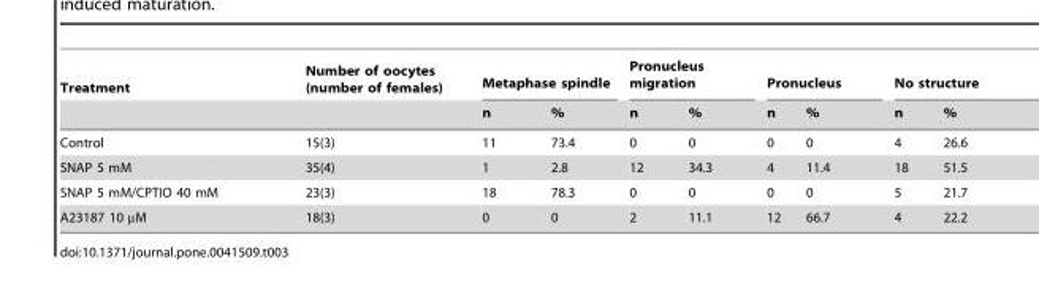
<table><thead><tr><td rowspan="2">Treatment</td><td rowspan="2">Number of oocytes (number of females)</td><td colspan="2">Metaphase spindle</td><td colspan="2">Pronucleus migration</td><td colspan="2">Pronucleus</td><td colspan="2">No structure</td></tr><tr><td>n</td><td>%</td><td>n</td><td>%</td><td>n</td><td>%</td><td>n</td><td>%</td></tr></thead><tbody><tr><td>Control</td><td>15(3)</td><td>11</td><td>73.4</td><td>0</td><td>0</td><td>0</td><td>0</td><td>4</td><td>26.6</td></tr><tr><td>SNAP 5 mM</td><td>35(4)</td><td>1</td><td>2.8</td><td>12</td><td>34.3</td><td>4</td><td>11.4</td><td>18</td><td>51.5</td></tr><tr><td>SNAP 5 mM/CPTIO 40 mM</td><td>23(3)</td><td>18</td><td>78.3</td><td>0</td><td>0</td><td>0</td><td>0</td><td>5</td><td>21.7</td></tr><tr><td>A23187 10 µM</td><td>18(3)</td><td>0</td><td>0</td><td>2</td><td>11.1</td><td>12</td><td>66.7</td><td>4</td><td>22.2</td></tr></tbody></table>